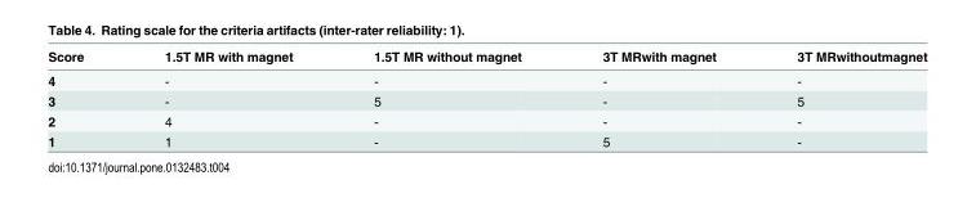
<table><thead><tr><td>Score</td><td>1.5T MR with magnet</td><td>1.5T MR without magnet</td><td>3T MRwith magnet</td><td>3T MRwithoutmagnet</td></tr></thead><tbody><tr><td>4</td><td>-</td><td>-</td><td>-</td><td>-</td></tr><tr><td>3</td><td>-</td><td>5</td><td>-</td><td>5</td></tr><tr><td>2</td><td>4</td><td>-</td><td>-</td><td>-</td></tr><tr><td>1</td><td>1</td><td>-</td><td>5</td><td>-</td></tr></tbody></table>